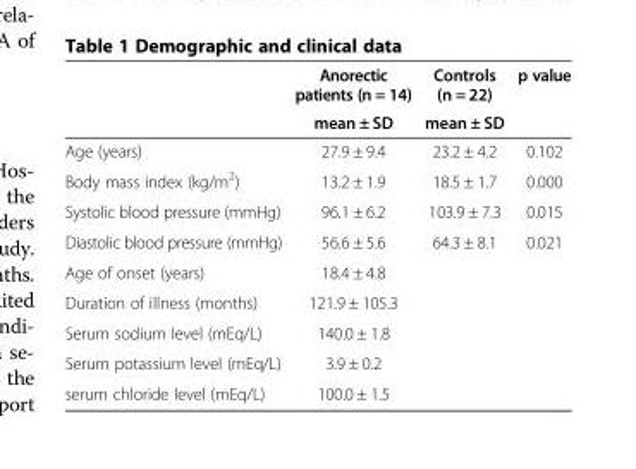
<table><thead><tr><td rowspan="2"></td><td rowspan="2">Anorectic patients (n = 14) mean ± SD</td><td rowspan="2">Controls (n = 22) mean ± SD</td><td rowspan="2">p value</td></tr><tr></tr></thead><tbody><tr><td>Age (years)</td><td>27.9 ± 9.4</td><td>23.2 ± 4.2</td><td>0.102</td></tr><tr><td>Body mass index (kg/m<sup>2</sup>)</td><td>13.2 ± 1.9</td><td>18.5 ± 1.7</td><td>0.000</td></tr><tr><td>Systolic blood pressure (mmHg)</td><td>96.1 ± 6.2</td><td>103.9 ± 7.3</td><td>0.015</td></tr><tr><td>Diastolic blood pressure (mmHg)</td><td>56.6 ± 5.6</td><td>64.3 ± 8.1</td><td>0.021</td></tr><tr><td>Age of onset (years)</td><td>18.4 ± 4.8</td><td></td><td></td></tr><tr><td>Duration of illness (months)</td><td>121.9 ± 105.3</td><td></td><td></td></tr><tr><td>Serum sodium level (mEq/L)</td><td>140.0 ± 1.8</td><td></td><td></td></tr><tr><td>Serum potassium level (mEq/L)</td><td>3.9 ± 0.2</td><td></td><td></td></tr><tr><td>serum chloride level (mEq/L)</td><td>100.0 ± 1.5</td><td></td><td></td></tr></tbody></table>